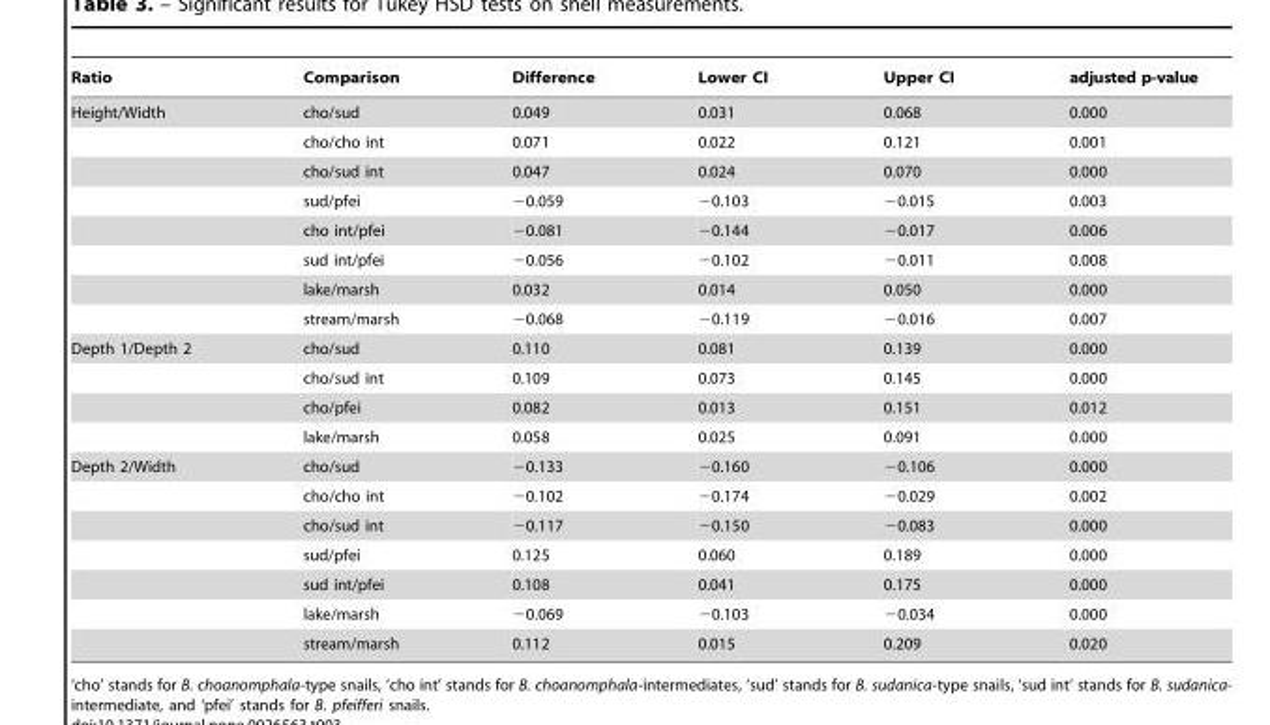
<table><thead><tr><td>Ratio</td><td>Comparison</td><td>Difference</td><td>Lower CI</td><td>Upper CI</td><td>adjusted p-value</td></tr></thead><tbody><tr><td rowspan="8">Height/Width</td><td>cho/sud</td><td>0.049</td><td>0.031</td><td>0.068</td><td>0.000</td></tr><tr><td>cho/cho int</td><td>0.071</td><td>0.022</td><td>0.121</td><td>0.001</td></tr><tr><td>cho/sud int</td><td>0.047</td><td>0.024</td><td>0.070</td><td>0.000</td></tr><tr><td>sud/pfei</td><td>−0.059</td><td>−0.103</td><td>−0.015</td><td>0.003</td></tr><tr><td>cho int/pfei</td><td>−0.081</td><td>−0.144</td><td>−0.017</td><td>0.006</td></tr><tr><td>sud int/pfei</td><td>−0.056</td><td>−0.102</td><td>−0.011</td><td>0.008</td></tr><tr><td>lake/marsh</td><td>0.032</td><td>0.014</td><td>0.050</td><td>0.000</td></tr><tr><td>stream/marsh</td><td>−0.068</td><td>−0.119</td><td>−0.016</td><td>0.007</td></tr><tr><td rowspan="4">Depth 1/Depth 2</td><td>cho/sud</td><td>0.110</td><td>0.081</td><td>0.139</td><td>0.000</td></tr><tr><td>cho/sud int</td><td>0.109</td><td>0.073</td><td>0.145</td><td>0.000</td></tr><tr><td>cho/pfei</td><td>0.082</td><td>0.013</td><td>0.151</td><td>0.012</td></tr><tr><td>lake/marsh</td><td>0.058</td><td>0.025</td><td>0.091</td><td>0.000</td></tr><tr><td rowspan="7">Depth 2/Width</td><td>cho/sud</td><td>−0.133</td><td>−0.160</td><td>−0.106</td><td>0.000</td></tr><tr><td>cho/cho int</td><td>−0.102</td><td>−0.174</td><td>−0.029</td><td>0.002</td></tr><tr><td>cho/sud int</td><td>−0.117</td><td>−0.150</td><td>−0.083</td><td>0.000</td></tr><tr><td>sud/pfei</td><td>0.125</td><td>0.060</td><td>0.189</td><td>0.000</td></tr><tr><td>sud int/pfei</td><td>0.108</td><td>0.041</td><td>0.175</td><td>0.000</td></tr><tr><td>lake/marsh</td><td>−0.069</td><td>−0.103</td><td>−0.034</td><td>0.000</td></tr><tr><td>stream/marsh</td><td>0.112</td><td>0.015</td><td>0.209</td><td>0.020</td></tr></tbody></table>